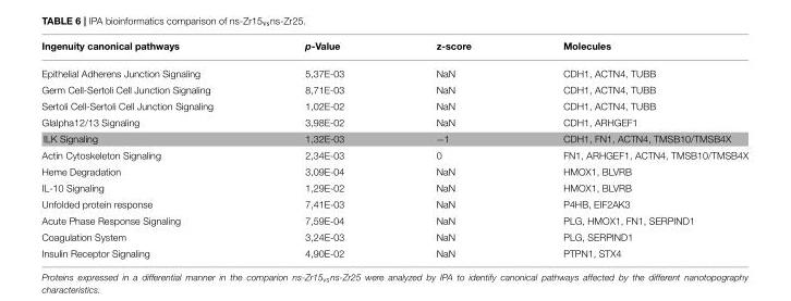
<table><thead><tr><td>Ingenuity canonical pathways</td><td>p-Value</td><td>z-score</td><td>Molecules</td></tr></thead><tbody><tr><td>Epithelial Adherens Junction Signaling</td><td>5,37E-03</td><td>NaN</td><td>CDH1, ACTN4, TUBB</td></tr><tr><td>Germ Cell-Sertoli Cell Junction Signaling</td><td>8,71E-03</td><td>NaN</td><td>CDH1, ACTN4, TUBB</td></tr><tr><td>Sertoli Cell-Sertoli Cell Junction Signaling</td><td>1,02E-02</td><td>NaN</td><td>CDH1, ACTN4, TUBB</td></tr><tr><td>GIalpha12/13 Signaling</td><td>3,98E-02</td><td>NaN</td><td>CDH1, ARHGEF1</td></tr><tr><td>ILK Signaling</td><td>1,32E-03</td><td>−1</td><td>CDH1, FN1, ACTN4, TMSB10/TMSB4X</td></tr><tr><td>Actin Cytoskeleton Signaling</td><td>2,34E-03</td><td>0</td><td>FN1, ARHGEF1, ACTN4, TMSB10/TMSB4X</td></tr><tr><td>Heme Degradation</td><td>3,09E-04</td><td>NaN</td><td>HMOX1, BLVRB</td></tr><tr><td>IL-10 Signaling</td><td>1,29E-02</td><td>NaN</td><td>HMOX1, BLVRB</td></tr><tr><td>Unfolded protein response</td><td>7,41E-03</td><td>NaN</td><td>P4HB, EIF2AK3</td></tr><tr><td>Acute Phase Response Signaling</td><td>7,59E-04</td><td>NaN</td><td>PLG, HMOX1, FN1, SERPIND1</td></tr><tr><td>Coagulation System</td><td>3,24E-03</td><td>NaN</td><td>PLG, SERPIND1</td></tr><tr><td>Insulin Receptor Signaling</td><td>4,90E-02</td><td>NaN</td><td>PTPN1, STX4</td></tr></tbody></table>